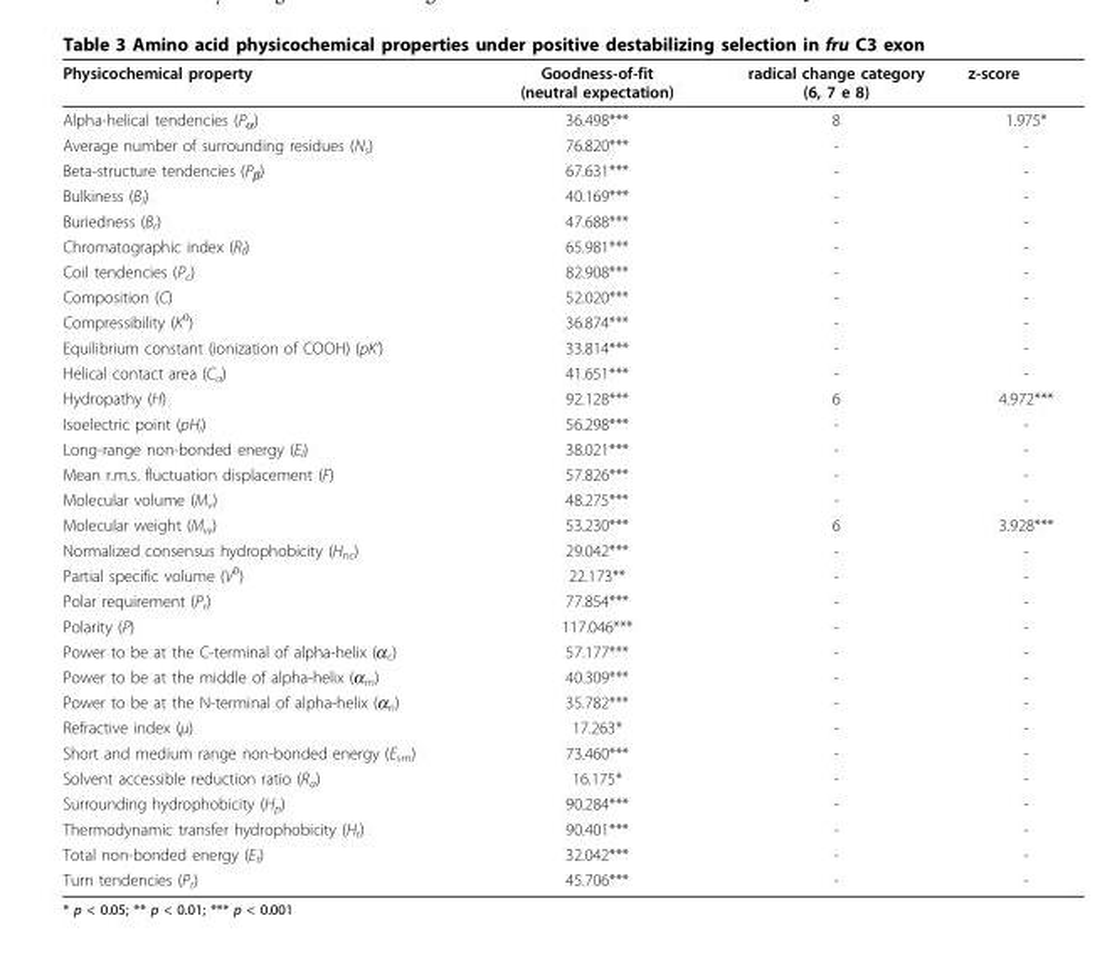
<table><thead><tr><td>Physicochemical property</td><td>Goodness-of-fit (neutral expectation)</td><td>radical change category (6, 7 e 8)</td><td>z-score</td></tr></thead><tbody><tr><td>Alpha-helical tendencies (P<sub>α</sub>)</td><td>36.498***</td><td>8</td><td>1.975*</td></tr><tr><td>Average number of surrounding residues (N<sub>s</sub>)</td><td>76.820***</td><td>-</td><td>-</td></tr><tr><td>Beta-structure tendencies (P<sub>β</sub>)</td><td>67.631***</td><td>-</td><td>-</td></tr><tr><td>Bulkiness (B<sub>l</sub>)</td><td>40.169***</td><td>-</td><td>-</td></tr><tr><td>Buriedness (B<sub>r</sub>)</td><td>47.688***</td><td>-</td><td>-</td></tr><tr><td>Chromatographic index (R<sub>f</sub>)</td><td>65.981***</td><td>-</td><td>-</td></tr><tr><td>Coil tendencies (P<sub>c</sub>)</td><td>82.908***</td><td>-</td><td>-</td></tr><tr><td>Composition (C)</td><td>52.020***</td><td>-</td><td>-</td></tr><tr><td>Compressibility (K<sup>0</sup>)</td><td>36.874***</td><td>-</td><td>-</td></tr><tr><td>Equilibrium constant (ionization of COOH) (pK’)</td><td>33.814***</td><td>-</td><td>-</td></tr><tr><td>Helical contact area (C<sub>a</sub>)</td><td>41.651***</td><td>-</td><td>-</td></tr><tr><td>Hydropathy (H)</td><td>92.128***</td><td>6</td><td>4.972***</td></tr><tr><td>Isoelectric point (pH<sub>i</sub>)</td><td>56.298***</td><td>-</td><td>-</td></tr><tr><td>Long-range non-bonded energy (E<sub>l</sub>)</td><td>38.021***</td><td>-</td><td>-</td></tr><tr><td>Mean r.m.s. fluctuation displacement (F)</td><td>57.826***</td><td>-</td><td>-</td></tr><tr><td>Molecular volume (M<sub>v</sub>)</td><td>48.275***</td><td>-</td><td>-</td></tr><tr><td>Molecular weight (M<sub>w</sub>)</td><td>53.230***</td><td>6</td><td>3.928***</td></tr><tr><td>Normalized consensus hydrophobicity (H<sub>nc</sub>)</td><td>29.042***</td><td>-</td><td>-</td></tr><tr><td>Partial specific volume (V<sup>0</sup>)</td><td>22.173**</td><td>-</td><td>-</td></tr><tr><td>Polar requirement (P<sub>r</sub>)</td><td>77.854***</td><td>-</td><td>-</td></tr><tr><td>Polarity (P)</td><td>117.046***</td><td>-</td><td>-</td></tr><tr><td>Power to be at the C-terminal of alpha-helix (α<sub>c</sub>)</td><td>57.177***</td><td>-</td><td>-</td></tr><tr><td>Power to be at the middle of alpha-helix (α<sub>m</sub>)</td><td>40.309***</td><td>-</td><td>-</td></tr><tr><td>Power to be at the N-terminal of alpha-helix (α<sub>n</sub>)</td><td>35.782***</td><td>-</td><td>-</td></tr><tr><td>Refractive index (μ)</td><td>17.263*</td><td>-</td><td>-</td></tr><tr><td>Short and medium range non-bonded energy (E<sub>sm</sub>)</td><td>73.460***</td><td>-</td><td>-</td></tr><tr><td>Solvent accessible reduction ratio (R<sub>a</sub>)</td><td>16.175*</td><td>-</td><td>-</td></tr><tr><td>Surrounding hydrophobicity (H<sub>p</sub>)</td><td>90.284***</td><td>-</td><td>-</td></tr><tr><td>Thermodynamic transfer hydrophobicity (H<sub>t</sub>)</td><td>90.401***</td><td>-</td><td>-</td></tr><tr><td>Total non-bonded energy (E<sub>t</sub>)</td><td>32.042***</td><td>-</td><td>-</td></tr><tr><td>Turn tendencies (P<sub>t</sub>)</td><td>45.706***</td><td>-</td><td>-</td></tr></tbody></table>